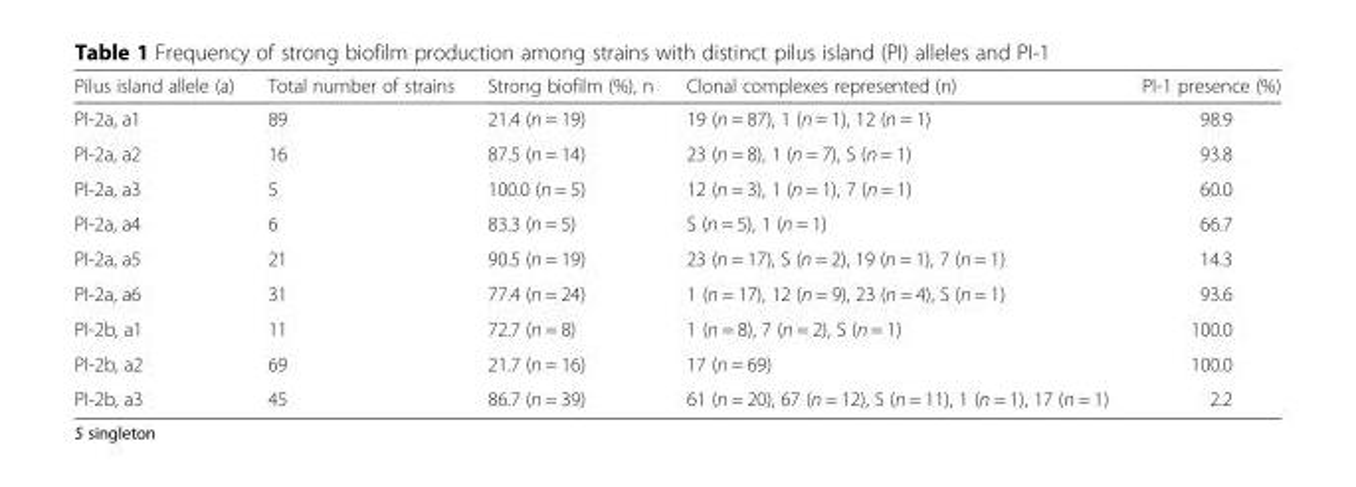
<table><thead><tr><td>Pilus island allele (a)</td><td>Total number of strains</td><td>Strong biofilm (%), n</td><td>Clonal complexes represented (n)</td><td>PI-1 presence (%)</td></tr></thead><tbody><tr><td>PI-2a, a1</td><td>89</td><td>21.4 (n = 19)</td><td>19 (n = 87), 1 (n = 1), 12 (n = 1)</td><td>98.9</td></tr><tr><td>PI-2a, a2</td><td>16</td><td>87.5 (n = 14)</td><td>23 (n = 8), 1 (n = 7), S (n = 1)</td><td>93.8</td></tr><tr><td>PI-2a, a3</td><td>5</td><td>100.0 (n = 5)</td><td>12 (n = 3), 1 (n = 1), 7 (n = 1)</td><td>60.0</td></tr><tr><td>PI-2a, a4</td><td>6</td><td>83.3 (n = 5)</td><td>S (n = 5), 1 (n = 1)</td><td>66.7</td></tr><tr><td>PI-2a, a5</td><td>21</td><td>90.5 (n = 19)</td><td>23 (n = 17), S (n = 2), 19 (n = 1), 7 (n = 1)</td><td>14.3</td></tr><tr><td>PI-2a, a6</td><td>31</td><td>77.4 (n = 24)</td><td>1 (n = 17), 12 (n = 9), 23 (n = 4), S (n = 1)</td><td>93.6</td></tr><tr><td>PI-2b, a1</td><td>11</td><td>72.7 (n = 8)</td><td>1 (n = 8), 7 (n = 2), S (n = 1)</td><td>100.0</td></tr><tr><td>PI-2b, a2</td><td>69</td><td>21.7 (n = 16)</td><td>17 (n = 69)</td><td>100.0</td></tr><tr><td>PI-2b, a3</td><td>45</td><td>86.7 (n = 39)</td><td>61 (n = 20), 67 (n = 12), S (n = 11), 1 (n = 1), 17 (n = 1)</td><td>2.2</td></tr></tbody></table>